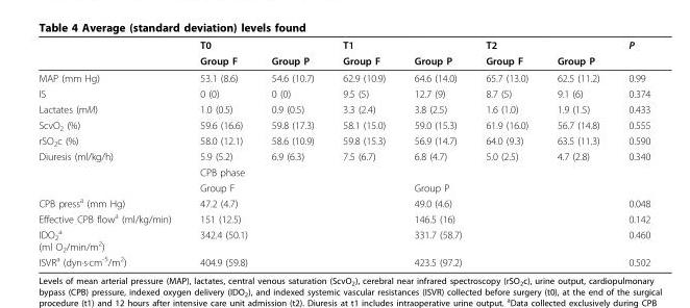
<table><thead><tr><td rowspan="2"></td><td colspan="2">T0</td><td colspan="2">T1</td><td colspan="2">T2</td><td rowspan="2">P</td></tr><tr><td>Group F</td><td>Group P</td><td>Group F</td><td>Group P</td><td>Group F</td><td>Group P</td></tr></thead><tbody><tr><td>MAP (mm Hg)</td><td>53.1 (8.6)</td><td>54.6 (10.7)</td><td>62.9 (10.9)</td><td>64.6 (14.0)</td><td>65.7 (13.0)</td><td>62.5 (11.2)</td><td>0.99</td></tr><tr><td>IS</td><td>0 (0)</td><td>0 (0)</td><td>9.5 (5)</td><td>12.7 (9)</td><td>8.7 (5)</td><td>9.1 (6)</td><td>0.374</td></tr><tr><td>Lactates (mM)</td><td>1.0 (0.5)</td><td>0.9 (0.5)</td><td>3.3 (2.4)</td><td>3.8 (2.5)</td><td>1.6 (1.0)</td><td>1.9 (1.5)</td><td>0.433</td></tr><tr><td>ScvO<sub>2</sub> (%)</td><td>59.6 (16.6)</td><td>59.8 (17.3)</td><td>58.1 (15.0)</td><td>59.0 (15.3)</td><td>61.9 (16.0)</td><td>56.7 (14.8)</td><td>0.555</td></tr><tr><td>rSO<sub>2</sub>c (%)</td><td>58.0 (12.1)</td><td>58.6 (10.9)</td><td>59.8 (15.3)</td><td>56.9 (14.7)</td><td>64.0 (9.3)</td><td>63.5 (11.3)</td><td>0.590</td></tr><tr><td rowspan="3">Diuresis (ml/kg/h)</td><td>5.9 (5.2)</td><td>6.9 (6.3)</td><td>7.5 (6.7)</td><td>6.8 (4.7)</td><td>5.0 (2.5)</td><td>4.7 (2.8)</td><td>0.340</td></tr><tr><td colspan="3">CPB phase</td><td></td><td></td><td></td><td></td></tr><tr><td colspan="3">Group F</td><td colspan="3">Group P</td><td></td></tr><tr><td>CPB press<sup>a</sup> (mm Hg)</td><td colspan="3">47.2 (4.7)</td><td colspan="3">49.0 (4.6)</td><td>0.048</td></tr><tr><td>Effective CPB flow<sup>a</sup> (ml/kg/min)</td><td colspan="3">151 (12.5)</td><td colspan="3">146.5 (16)</td><td>0.142</td></tr><tr><td>IDO<sub>2</sub> <sup>a</sup> (ml O<sub>2</sub>/min/m<sup>2</sup>)</td><td colspan="3">342.4 (50.1)</td><td colspan="3">331.7 (58.7)</td><td>0.460</td></tr><tr><td>ISVR<sup>a</sup> (dyn·s·cm<sup>-5</sup>/m<sup>2</sup>)</td><td colspan="3">404.9 (59.8)</td><td colspan="3">423.5 (97.2)</td><td>0.502</td></tr></tbody></table>